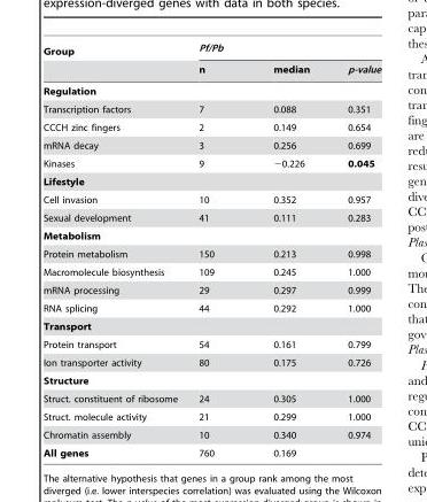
<table><thead><tr><td rowspan="2">Group</td><td colspan="3">Pf/Pb</td></tr><tr><td>n</td><td>median</td><td>p-value</td></tr></thead><tbody><tr><td colspan="4">Regulation</td></tr><tr><td>Transcription factors</td><td>7</td><td>0.088</td><td>0.351</td></tr><tr><td>CCCH zinc fingers</td><td>2</td><td>0.149</td><td>0.654</td></tr><tr><td>mRNA decay</td><td>3</td><td>0.256</td><td>0.699</td></tr><tr><td>Kinases</td><td>9</td><td>−0.226</td><td>0.045</td></tr><tr><td colspan="4">Lifestyle</td></tr><tr><td>Cell invasion</td><td>10</td><td>0.352</td><td>0.957</td></tr><tr><td>Sexual development</td><td>41</td><td>0.111</td><td>0.283</td></tr><tr><td colspan="4">Metabolism</td></tr><tr><td>Protein metabolism</td><td>150</td><td>0.213</td><td>0.998</td></tr><tr><td>Macromolecule biosynthesis</td><td>109</td><td>0.245</td><td>1.000</td></tr><tr><td>mRNA processing</td><td>29</td><td>0.297</td><td>0.999</td></tr><tr><td>RNA splicing</td><td>44</td><td>0.292</td><td>1.000</td></tr><tr><td colspan="4">Transport</td></tr><tr><td>Protein transport</td><td>54</td><td>0.161</td><td>0.799</td></tr><tr><td>Ion transporter activity</td><td>80</td><td>0.175</td><td>0.726</td></tr><tr><td colspan="4">Structure</td></tr><tr><td>Struct. constituent of ribosome</td><td>24</td><td>0.305</td><td>1.000</td></tr><tr><td>Struct. molecule activity</td><td>21</td><td>0.299</td><td>1.000</td></tr><tr><td>Chromatin assembly</td><td>10</td><td>0.340</td><td>0.974</td></tr><tr><td>All genes</td><td>760</td><td>0.169</td><td></td></tr></tbody></table>